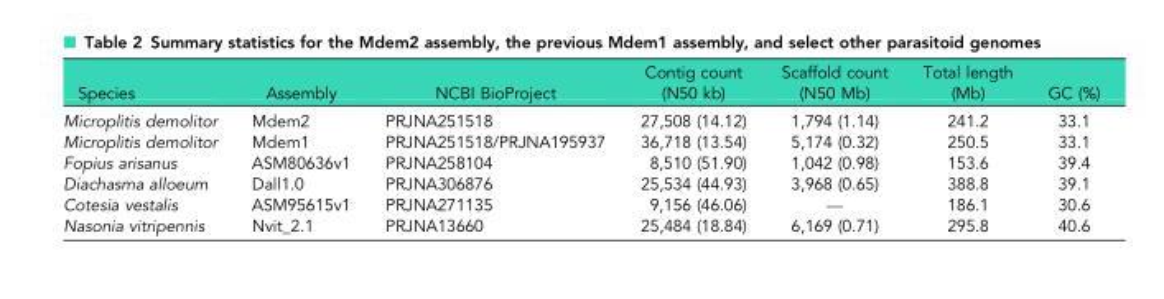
<table><thead><tr><td>Species</td><td>Assembly</td><td>NCBI BioProject</td><td>Contig count (N50 kb)</td><td>Scaffold count (N50 Mb)</td><td>Total length (Mb)</td><td>GC (%)</td></tr></thead><tbody><tr><td>Microplitis demolitor</td><td>Mdem2</td><td>PRJNA251518</td><td>27,508 (14.12)</td><td>1,794 (1.14)</td><td>241.2</td><td>33.1</td></tr><tr><td>Microplitis demolitor</td><td>Mdem1</td><td>PRJNA251518/PRJNA195937</td><td>36,718 (13.54)</td><td>5,174 (0.32)</td><td>250.5</td><td>33.1</td></tr><tr><td>Fopius arisanus</td><td>ASM80636v1</td><td>PRJNA258104</td><td>8,510 (51.90)</td><td>1,042 (0.98)</td><td>153.6</td><td>39.4</td></tr><tr><td>Diachasma alloeum</td><td>Dall1.0</td><td>PRJNA306876</td><td>25,534 (44.93)</td><td>3,968 (0.65)</td><td>388.8</td><td>39.1</td></tr><tr><td>Cotesia vestalis</td><td>ASM95615v1</td><td>PRJNA271135</td><td>9,156 (46.06)</td><td>—</td><td>186.1</td><td>30.6</td></tr><tr><td>Nasonia vitripennis</td><td>Nvit_2.1</td><td>PRJNA13660</td><td>25,484 (18.84)</td><td>6,169 (0.71)</td><td>295.8</td><td>40.6</td></tr></tbody></table>